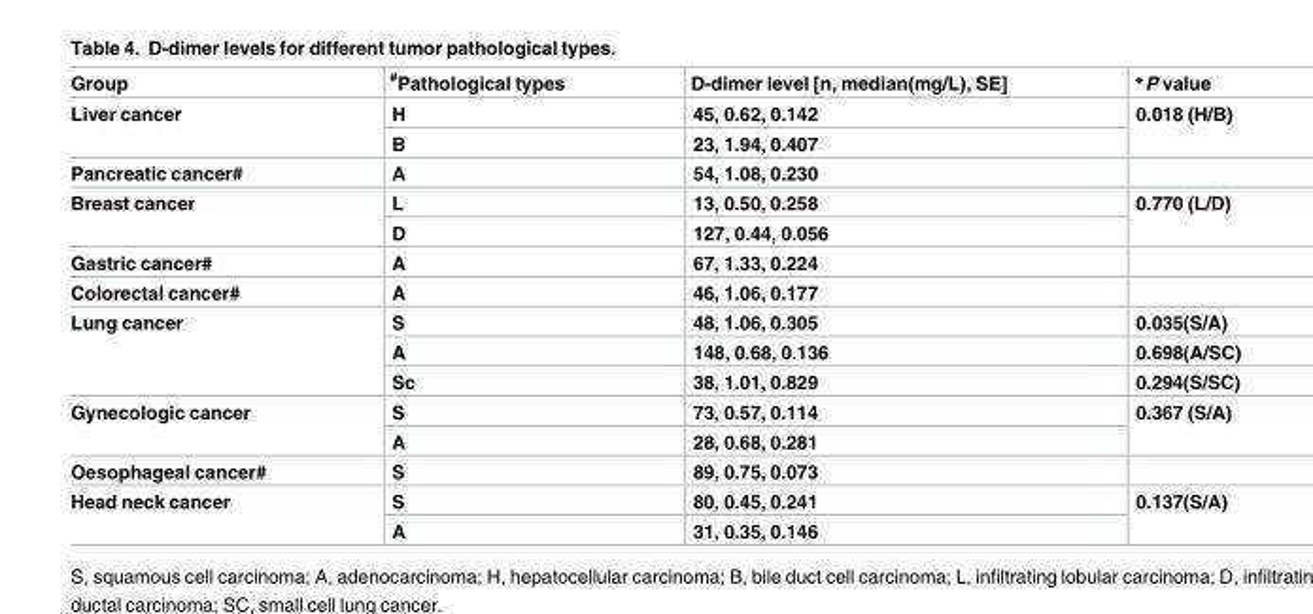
<table><thead><tr><td>Group</td><td><sup>#</sup>Pathological types</td><td>D-dimer level [n, median(mg/L), SE]</td><td>*P value</td></tr></thead><tbody><tr><td rowspan="2">Liver cancer</td><td>H</td><td>45, 0.62, 0.142</td><td rowspan="2">0.018 (H/B)</td></tr><tr><td>B</td><td>23, 1.94, 0.407</td></tr><tr><td>Pancreatic cancer#</td><td>A</td><td>54, 1.08, 0.230</td><td></td></tr><tr><td rowspan="2">Breast cancer</td><td>L</td><td>13, 0.50, 0.258</td><td rowspan="2">0.770 (L/D)</td></tr><tr><td>D</td><td>127, 0.44, 0.056</td></tr><tr><td>Gastric cancer#</td><td>A</td><td>67, 1.33, 0.224</td><td></td></tr><tr><td>Colorectal cancer#</td><td>A</td><td>46, 1.06, 0.177</td><td></td></tr><tr><td rowspan="3">Lung cancer</td><td>S</td><td>48, 1.06, 0.305</td><td>0.035(S/A)</td></tr><tr><td>A</td><td>148, 0.68, 0.136</td><td>0.698(A/SC)</td></tr><tr><td>Sc</td><td>38, 1.01, 0.829</td><td>0.294(S/SC)</td></tr><tr><td rowspan="2">Gynecologic cancer</td><td>S</td><td>73, 0.57, 0.114</td><td rowspan="2">0.367 (S/A)</td></tr><tr><td>A</td><td>28, 0.68, 0.281</td></tr><tr><td>Oesophageal cancer#</td><td>S</td><td>89, 0.75, 0.073</td><td></td></tr><tr><td rowspan="2">Head neck cancer</td><td>S</td><td>80, 0.45, 0.241</td><td rowspan="2">0.137(S/A)</td></tr><tr><td>A</td><td>31, 0.35, 0.146</td></tr></tbody></table>